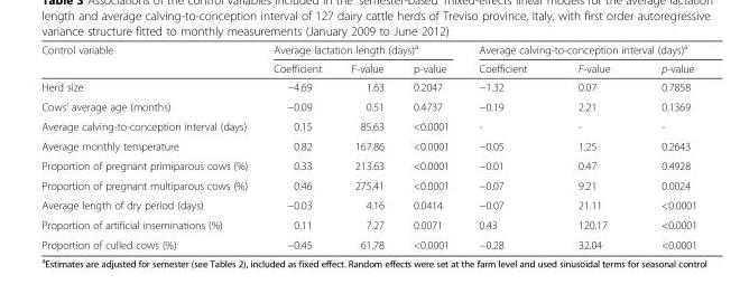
<table><thead><tr><td rowspan="2">Control variable</td><td colspan="3">Average lactation length (days)<sup>a</sup></td><td colspan="3">Average calving-to-conception interval (days)<sup>a</sup></td></tr><tr><td>Coefficient</td><td>F-value</td><td>p-value</td><td>Coefficient</td><td>F-value</td><td>p-value</td></tr></thead><tbody><tr><td>Herd size</td><td>−4.69</td><td>1.63</td><td>0.2047</td><td>−1.32</td><td>0.07</td><td>0.7858</td></tr><tr><td>Cows’ average age (months)</td><td>−0.09</td><td>0.51</td><td>0.4737</td><td>−0.19</td><td>2.21</td><td>0.1369</td></tr><tr><td>Average calving-to-conception interval (days)</td><td>0.15</td><td>85.63</td><td>&lt;0.0001</td><td>-</td><td>-</td><td>-</td></tr><tr><td>Average monthly temperature</td><td>0.82</td><td>167.86</td><td>&lt;0.0001</td><td>−0.05</td><td>1.25</td><td>0.2643</td></tr><tr><td>Proportion of pregnant primiparous cows (%)</td><td>0.33</td><td>213.63</td><td>&lt;0.0001</td><td>−0.01</td><td>0.47</td><td>0.4928</td></tr><tr><td>Proportion of pregnant multiparous cows (%)</td><td>0.46</td><td>275.41</td><td>&lt;0.0001</td><td>−0.07</td><td>9.21</td><td>0.0024</td></tr><tr><td>Average length of dry period (days)</td><td>−0.03</td><td>4.16</td><td>0.0414</td><td>−0.07</td><td>21.11</td><td>&lt;0.0001</td></tr><tr><td>Proportion of artificial inseminations (%)</td><td>0.11</td><td>7.27</td><td>0.0071</td><td>0.43</td><td>120.17</td><td>&lt;0.0001</td></tr><tr><td>Proportion of culled cows (%)</td><td>−0.45</td><td>61.78</td><td>&lt;0.0001</td><td>−0.28</td><td>32.04</td><td>&lt;0.0001</td></tr></tbody></table>